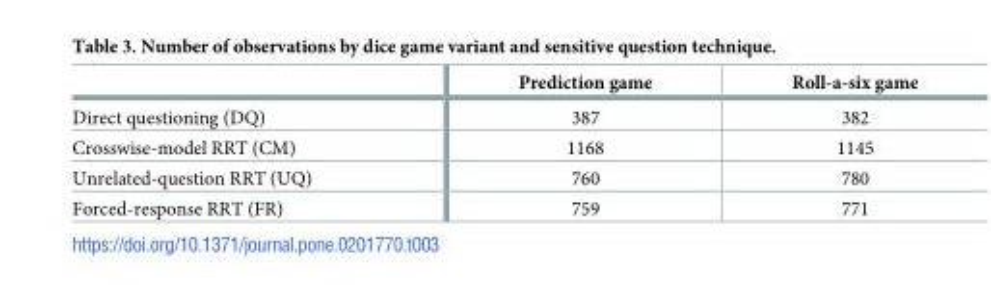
<table><thead><tr><td></td><td>Prediction game</td><td>Roll-a-six game</td></tr></thead><tbody><tr><td>Direct questioning (DQ)</td><td>387</td><td>382</td></tr><tr><td>Crosswise-model RRT (CM)</td><td>1168</td><td>1145</td></tr><tr><td>Unrelated-question RRT (UQ)</td><td>760</td><td>780</td></tr><tr><td>Forced-response RRT (FR)</td><td>759</td><td>771</td></tr></tbody></table>